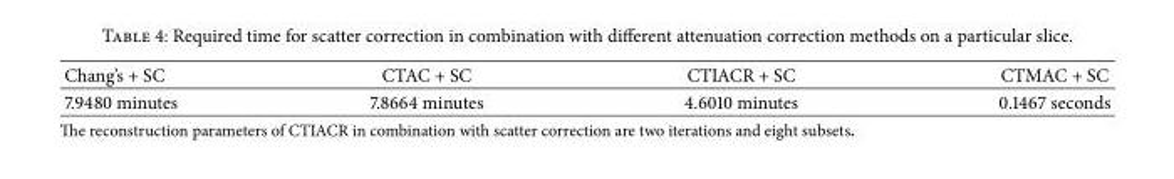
<table><thead><tr><td>Chang’s + SC</td><td>CTAC + SC</td><td>CTIACR + SC</td><td>CTMAC + SC</td></tr></thead><tbody><tr><td>7.9480 minutes</td><td>7.8664 minutes</td><td>4.6010 minutes</td><td>0.1467 seconds</td></tr></tbody></table>